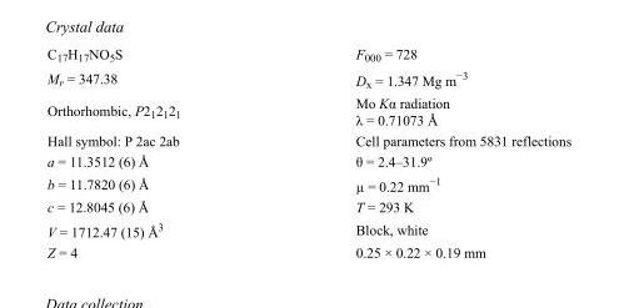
<table><tbody><tr><td>C<sub>17</sub>H<sub>17</sub>NO<sub>5</sub>S</td><td>F000 = 728</td></tr><tr><td>M<sub>r</sub> = 347.38</td><td>D<sub>x</sub> = 1.347 Mg m<sup>−3</sup></td></tr><tr><td>Orthorhombic, P2<sub>1</sub>2<sub>1</sub>2<sub>1</sub></td><td>Mo Kα radiation λ = 0.71073 Å</td></tr><tr><td>Hall symbol: P 2ac 2ab</td><td>Cell parameters from 5831 reflections</td></tr><tr><td>a = 11.3512 (6) Å</td><td>θ = 2.4–31.9º</td></tr><tr><td>b = 11.7820 (6) Å</td><td>µ = 0.22 mm<sup>−1</sup></td></tr><tr><td>c = 12.8045 (6) Å</td><td>T = 293 K</td></tr><tr><td>V = 1712.47 (15) Å<sup>3</sup></td><td>Block, white</td></tr><tr><td>Z = 4</td><td>0.25 × 0.22 × 0.19 mm</td></tr></tbody></table>